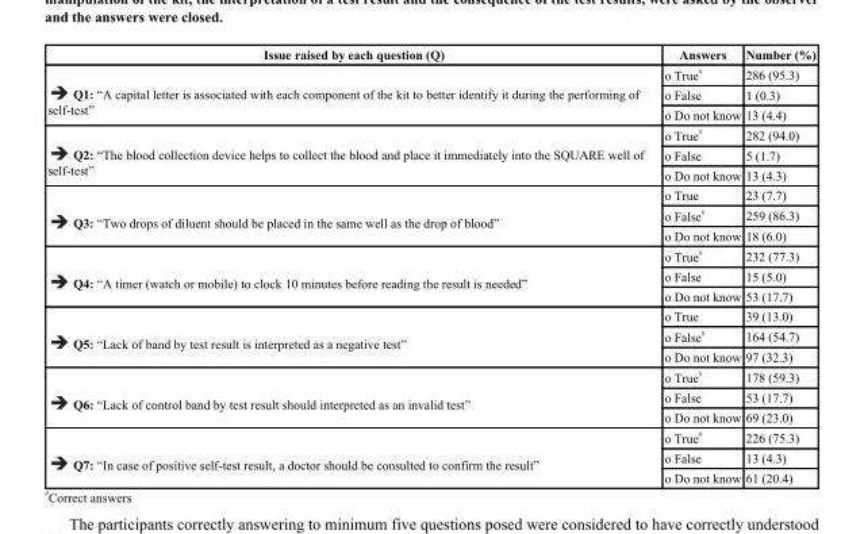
<table><thead><tr><td>Issue raised by each question (Q)</td><td>Answers</td><td>Number (%)</td></tr></thead><tbody><tr><td rowspan="3">Q1: “A capital letter is associated with each component of the kit to better identify it during the performing of self-test” �</td><td>o True <sup>#</sup></td><td>286 (95.3)</td></tr><tr><td>o False</td><td>1 (0.3)</td></tr><tr><td>o Do not know</td><td>13 (4.4)</td></tr><tr><td rowspan="3">Q2: “The blood collection device helps to collect the blood and place it immediately into the SQUARE well of self-test” �</td><td>o True <sup>#</sup></td><td>282 (94.0)</td></tr><tr><td>o False</td><td>5 (1.7)</td></tr><tr><td>o Do not know</td><td>13 (4.3)</td></tr><tr><td rowspan="3">Q3: “Two drops of diluent should be placed in the same well as the drop of blood” �</td><td>o True</td><td>23 (7.7)</td></tr><tr><td>o False <sup>#</sup></td><td>259 (86.3)</td></tr><tr><td>o Do not know</td><td>18 (6.0)</td></tr><tr><td rowspan="3">Q4: “A timer (watch or mobile) to clock 10 minutes before reading the result is needed” �</td><td>o True <sup>#</sup></td><td>232 (77.3)</td></tr><tr><td>o False</td><td>15 (5.0)</td></tr><tr><td>o Do not know</td><td>53 (17.7)</td></tr><tr><td rowspan="3">Q5: “Lack of band by test result is interpreted as a negative test” �</td><td>o True</td><td>39 (13.0)</td></tr><tr><td>o False <sup>#</sup></td><td>164 (54.7)</td></tr><tr><td>o Do not know</td><td>97 (32.3)</td></tr><tr><td rowspan="3">Q6: “Lack of control band by test result should interpreted as an invalid test” �</td><td>o True <sup>#</sup></td><td>178 (59.3)</td></tr><tr><td>o False</td><td>53 (17.7)</td></tr><tr><td>o Do not know</td><td>69 (23.0)</td></tr><tr><td rowspan="3">Q7: “In case of positive self-test result, a doctor should be consulted to confirm the result” �</td><td>o True <sup>#</sup></td><td>226 (75.3)</td></tr><tr><td>o False</td><td>13 (4.3)</td></tr><tr><td>o Do not know</td><td>61 (20.4)</td></tr></tbody></table>